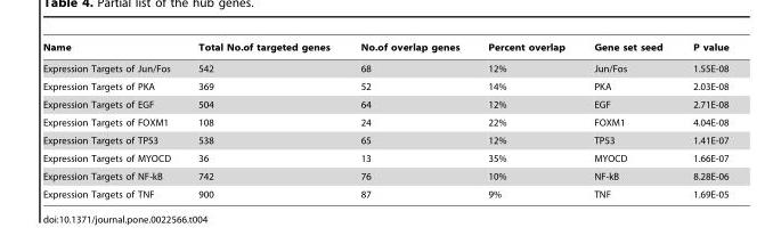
<table><thead><tr><td>Name</td><td>Total No.of targeted genes</td><td>No.of overlap genes</td><td>Percent overlap</td><td>Gene set seed</td><td>P value</td></tr></thead><tbody><tr><td>Expression Targets of Jun/Fos</td><td>542</td><td>68</td><td>12%</td><td>Jun/Fos</td><td>1.55E-08</td></tr><tr><td>Expression Targets of PKA</td><td>369</td><td>52</td><td>14%</td><td>PKA</td><td>2.03E-08</td></tr><tr><td>Expression Targets of EGF</td><td>504</td><td>64</td><td>12%</td><td>EGF</td><td>2.71E-08</td></tr><tr><td>Expression Targets of FOXM1</td><td>108</td><td>24</td><td>22%</td><td>FOXM1</td><td>4.04E-08</td></tr><tr><td>Expression Targets of TP53</td><td>538</td><td>65</td><td>12%</td><td>TP53</td><td>1.41E-07</td></tr><tr><td>Expression Targets of MYOCD</td><td>36</td><td>13</td><td>35%</td><td>MYOCD</td><td>1.66E-07</td></tr><tr><td>Expression Targets of NF-kB</td><td>742</td><td>76</td><td>10%</td><td>NF-kB</td><td>8.28E-06</td></tr><tr><td>Expression Targets of TNF</td><td>900</td><td>87</td><td>9%</td><td>TNF</td><td>1.69E-05</td></tr></tbody></table>